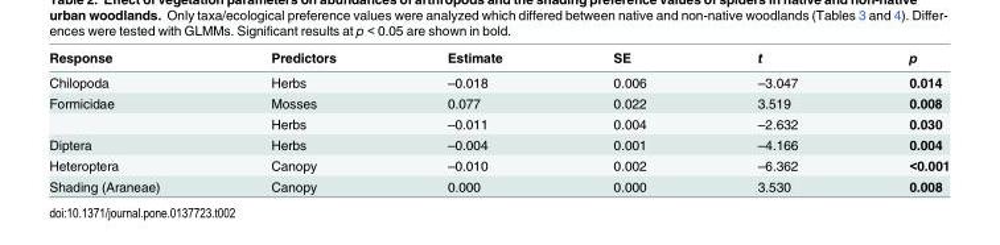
<table><thead><tr><td>Response</td><td>Predictors</td><td>Estimate</td><td>SE</td><td>t</td><td>p</td></tr></thead><tbody><tr><td>Chilopoda</td><td>Herbs</td><td>–0.018</td><td>0.006</td><td>–3.047</td><td>0.014</td></tr><tr><td rowspan="2">Formicidae</td><td>Mosses</td><td>0.077</td><td>0.022</td><td>3.519</td><td>0.008</td></tr><tr><td>Herbs</td><td>–0.011</td><td>0.004</td><td>–2.632</td><td>0.030</td></tr><tr><td>Diptera</td><td>Herbs</td><td>–0.004</td><td>0.001</td><td>–4.166</td><td>0.004</td></tr><tr><td>Heteroptera</td><td>Canopy</td><td>–0.010</td><td>0.002</td><td>–6.362</td><td>&lt;0.001</td></tr><tr><td>Shading (Araneae)</td><td>Canopy</td><td>0.000</td><td>0.000</td><td>3.530</td><td>0.008</td></tr></tbody></table>